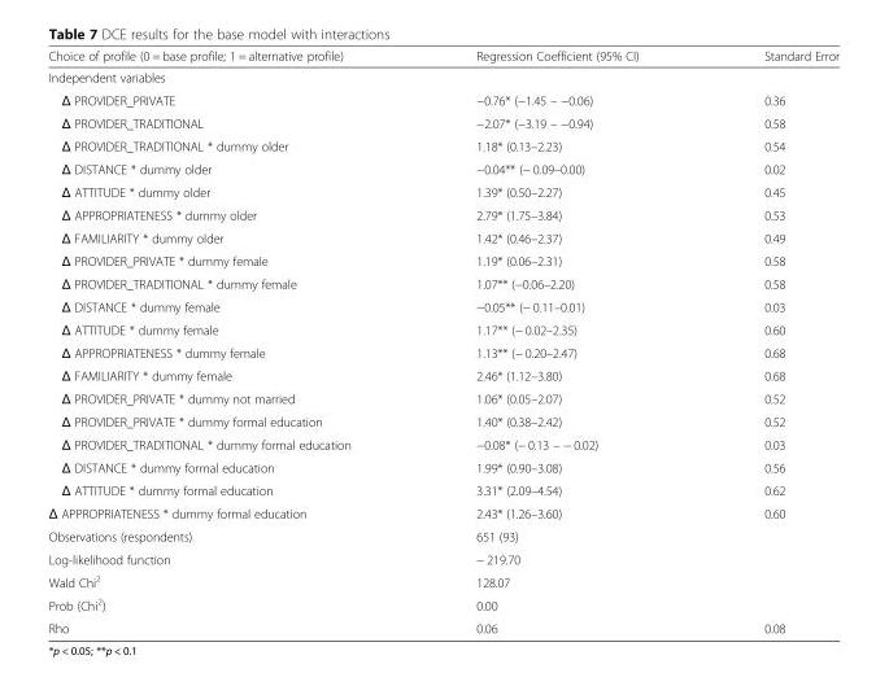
<table><thead><tr><td>Choice of profile (0 = base profile; 1 = alternative profile)</td><td>Regression Coefficient (95% CI)</td><td>Standard Error</td></tr></thead><tbody><tr><td colspan="3">Independent variables</td></tr><tr><td>Δ PROVIDER_PRIVATE</td><td>−0.76* (−1.45 – −0.06)</td><td>0.36</td></tr><tr><td>Δ PROVIDER_TRADITIONAL</td><td>−2.07* (−3.19 – −0.94)</td><td>0.58</td></tr><tr><td>Δ PROVIDER_TRADITIONAL * dummy older</td><td>1.18* (0.13–2.23)</td><td>0.54</td></tr><tr><td>Δ DISTANCE * dummy older</td><td>−0.04** (− 0.09–0.00)</td><td>0.02</td></tr><tr><td>Δ ATTITUDE * dummy older</td><td>1.39* (0.50–2.27)</td><td>0.45</td></tr><tr><td>Δ APPROPRIATENESS * dummy older</td><td>2.79* (1.75–3.84)</td><td>0.53</td></tr><tr><td>Δ FAMILIARITY * dummy older</td><td>1.42* (0.46–2.37)</td><td>0.49</td></tr><tr><td>Δ PROVIDER_PRIVATE * dummy female</td><td>1.19* (0.06–2.31)</td><td>0.58</td></tr><tr><td>Δ PROVIDER_TRADITIONAL * dummy female</td><td>1.07** (−0.06–2.20)</td><td>0.58</td></tr><tr><td>Δ DISTANCE * dummy female</td><td>−0.05** (− 0.11–0.01)</td><td>0.03</td></tr><tr><td>Δ ATTITUDE * dummy female</td><td>1.17** (− 0.02–2.35)</td><td>0.60</td></tr><tr><td>Δ APPROPRIATENESS * dummy female</td><td>1.13** (− 0.20–2.47)</td><td>0.68</td></tr><tr><td>Δ FAMILIARITY * dummy female</td><td>2.46* (1.12–3.80)</td><td>0.68</td></tr><tr><td>Δ PROVIDER_PRIVATE * dummy not married</td><td>1.06* (0.05–2.07)</td><td>0.52</td></tr><tr><td>Δ PROVIDER_PRIVATE * dummy formal education</td><td>1.40* (0.38–2.42)</td><td>0.52</td></tr><tr><td>Δ PROVIDER_TRADITIONAL * dummy formal education</td><td>−0.08* (− 0.13 – − 0.02)</td><td>0.03</td></tr><tr><td>Δ DISTANCE * dummy formal education</td><td>1.99* (0.90–3.08)</td><td>0.56</td></tr><tr><td>Δ ATTITUDE * dummy formal education</td><td>3.31* (2.09–4.54)</td><td>0.62</td></tr><tr><td>Δ APPROPRIATENESS * dummy formal education</td><td>2.43* (1.26–3.60)</td><td>0.60</td></tr><tr><td>Observations (respondents)</td><td>651 (93)</td><td></td></tr><tr><td>Log-likelihood function</td><td>− 219.70</td><td></td></tr><tr><td>Wald Chi<sup>2</sup></td><td>128.07</td><td></td></tr><tr><td>Prob (Chi<sup>2</sup>)</td><td>0.00</td><td></td></tr><tr><td>Rho</td><td>0.06</td><td>0.08</td></tr></tbody></table>